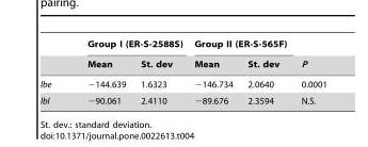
<table><thead><tr><td rowspan="2"></td><td colspan="2">Group I (ER-S-2588S)</td><td colspan="2">Group II (ER-S-565F)</td><td rowspan="2">P</td></tr><tr><td>Mean</td><td>St. dev</td><td>Mean</td><td>St. dev</td></tr></thead><tbody><tr><td>lbe</td><td>−144.639</td><td>1.6323</td><td>−146.734</td><td>2.0640</td><td>0.0001</td></tr><tr><td>lbl</td><td>−90.061</td><td>2.4110</td><td>−89.676</td><td>2.3594</td><td>N.S.</td></tr></tbody></table>